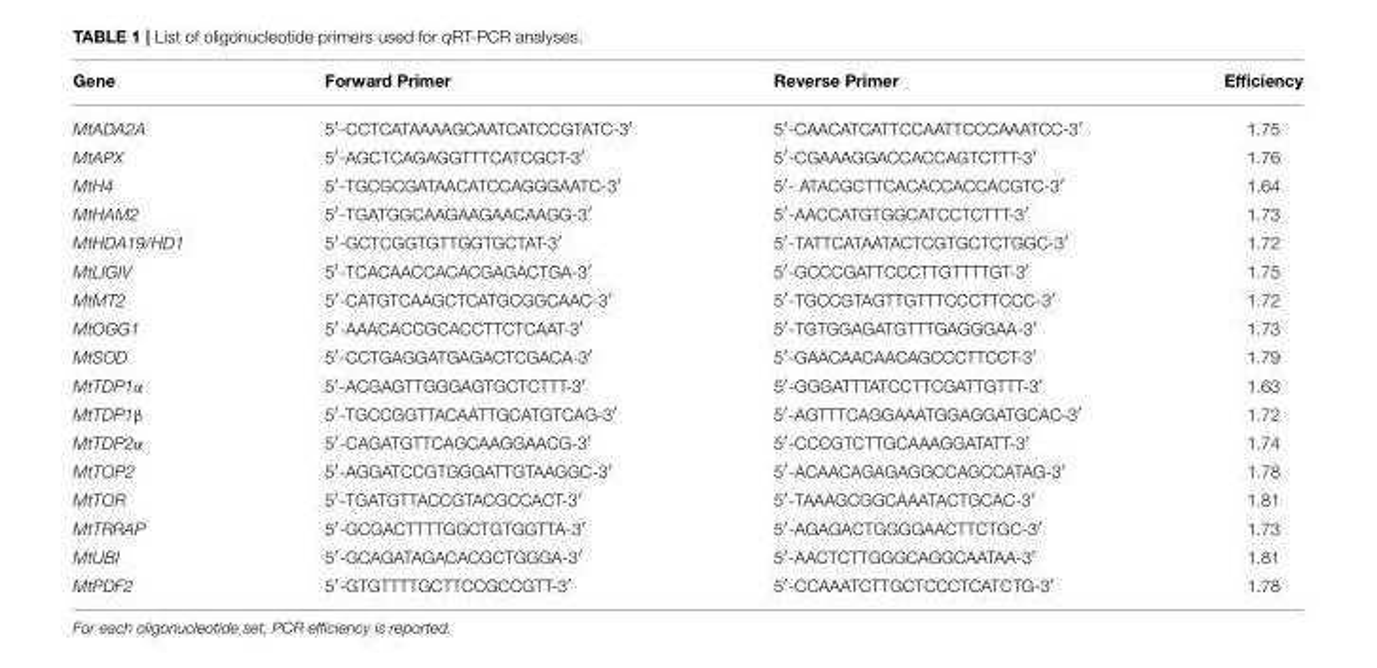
<table><thead><tr><td>Gene</td><td>Forward Primer</td><td>Reverse Primer</td><td>Efficiency</td></tr></thead><tbody><tr><td>MtADA2A</td><td>5′-CCTCATAAAAGCAATCATCCGTATC-3′</td><td>5′-CAACATCATTCCAATTCCCAAATCC-3′</td><td>1.75</td></tr><tr><td>MtAPX</td><td>5′-AGCTCAGAGGTTTCATCGCT-3′</td><td>5′-CGAAAGGACCACCAGTCTTT-3′</td><td>1.76</td></tr><tr><td>MtH4</td><td>5′-TGCGCGATAACATCCAGGGAATC-3′</td><td>5′- ATACGCTTCACACCACCACGTC-3′</td><td>1.64</td></tr><tr><td>MtHAM2</td><td>5′-TGATGGCAAGAAGAACAAGG-3′</td><td>5′-AACCATGTGGCATCCTCTTT-3′</td><td>1.73</td></tr><tr><td>MtHDA19/HD1</td><td>5′-GCTCGGTGTTGGTGCTAT-3′</td><td>5′-TATTCATAATACTCGTGCTCTGGC-3′</td><td>1.72</td></tr><tr><td>MtLIGIV</td><td>5′-TCACAACCACACGAGACTGA-3′</td><td>5′-GCCCGATTCCCTTGTTTTGT-3′</td><td>1.75</td></tr><tr><td>MtMT2</td><td>5′-CATGTCAAGCTCATGCGGCAAC-3′</td><td>5′-TGCCGTAGTTGTTTCCCTTCCC-3′</td><td>1.72</td></tr><tr><td>MtOGG1</td><td>5′-AAACACCGCACCTTCTCAAT-3′</td><td>5′-TGTGGAGATGTTTGAGGGAA-3′</td><td>1.73</td></tr><tr><td>MtSOD</td><td>5′-CCTGAGGATGAGACTCGACA-3′</td><td>5′-GAACAACAACAGCCCTTCCT-3′</td><td>1.79</td></tr><tr><td>MtTDP1α</td><td>5′-ACGAGTTGGGAGTGCTCTTT-3′</td><td>5′-GGGATTTATCCTTCGATTGTTT-3′</td><td>1.63</td></tr><tr><td>MtTDP1β</td><td>5′-TGCCGGTTACAATTGCATGTCAG-3′</td><td>5′-AGTTTCAGGAAATGGAGGATGCAC-3′</td><td>1.72</td></tr><tr><td>MtTDP2α</td><td>5′-CAGATGTTCAGCAAGGAACG-3′</td><td>5′-CCCGTCTTGCAAAGGATATT-3′</td><td>1.74</td></tr><tr><td>MtTOP2</td><td>5′-AGGATCCGTGGGATTGTAAGGC-3′</td><td>5′-ACAACAGAGAGGCCAGCCATAG-3′</td><td>1.78</td></tr><tr><td>MtTOR</td><td>5′-TGATGTTACCGTACGCCACT-3′</td><td>5′-TAAAGCGGCAAATACTGCAC-3′</td><td>1.81</td></tr><tr><td>MtTRRAP</td><td>5′-GCGACTTTTGGCTGTGGTTA-3′</td><td>5′-AGAGACTGGGGAACTTCTGC-3′</td><td>1.73</td></tr><tr><td>MtUBI</td><td>5′-GCAGATAGACACGCTGGGA-3′</td><td>5′-AACTCTTGGGCAGGCAATAA-3′</td><td>1.81</td></tr><tr><td>MtPDF2</td><td>5′-GTGTTTTGCTTCCGCCGTT-3′</td><td>5′-CCAAATCTTGCTCCCTCATCTG-3′</td><td>1.78</td></tr></tbody></table>